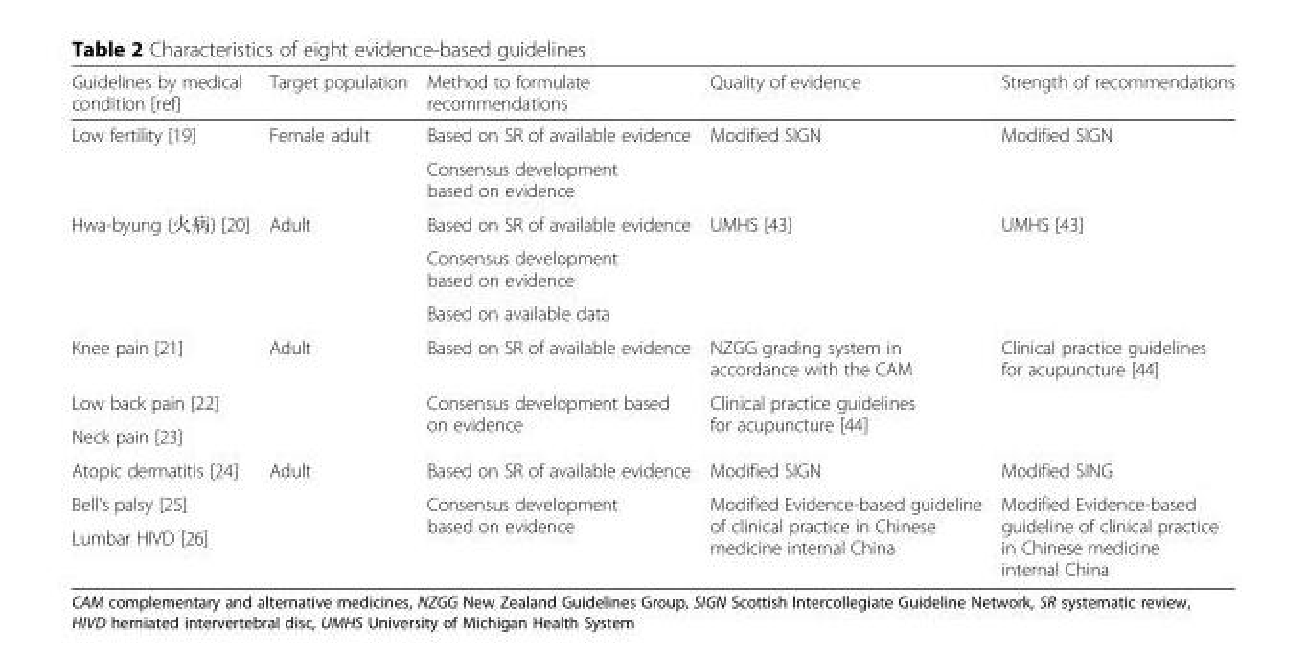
<table><thead><tr><td>Guidelines by medical condition [ref]</td><td>Target population</td><td>Method to formulate recommendations</td><td>Quality of evidence</td><td>Strength of recommendations</td></tr></thead><tbody><tr><td rowspan="2">Low fertility [19]</td><td rowspan="2">Female adult</td><td>Based on SR of available evidence</td><td rowspan="2">Modified SIGN</td><td rowspan="2">Modified SIGN</td></tr><tr><td>Consensus development based on evidence</td></tr><tr><td rowspan="3">Hwa-byung (火病) [20]</td><td rowspan="3">Adult</td><td>Based on SR of available evidence</td><td rowspan="3">UMHS [43]</td><td rowspan="3">UMHS [43]</td></tr><tr><td>Consensus development based on evidence</td></tr><tr><td>Based on available data</td></tr><tr><td>Knee pain [21]</td><td rowspan="3">Adult</td><td>Based on SR of available evidence</td><td>NZGG grading system in accordance with the CAM</td><td rowspan="3">Clinical practice guidelines for acupuncture [44]</td></tr><tr><td>Low back pain [22]</td><td rowspan="2">Consensus development based on evidence</td><td rowspan="2">Clinical practice guidelines for acupuncture [44]</td></tr><tr><td>Neck pain [23]</td></tr><tr><td>Atopic dermatitis [24]</td><td rowspan="3">Adult</td><td>Based on SR of available evidence</td><td>Modified SIGN</td><td>Modified SING</td></tr><tr><td>Bell’s palsy [25]</td><td rowspan="2">Consensus development based on evidence</td><td rowspan="2">Modified Evidence-based guideline of clinical practice in Chinese medicine internal China</td><td rowspan="2">Modified Evidence-based guideline of clinical practice in Chinese medicine internal China</td></tr><tr><td>Lumbar HIVD [26]</td></tr></tbody></table>